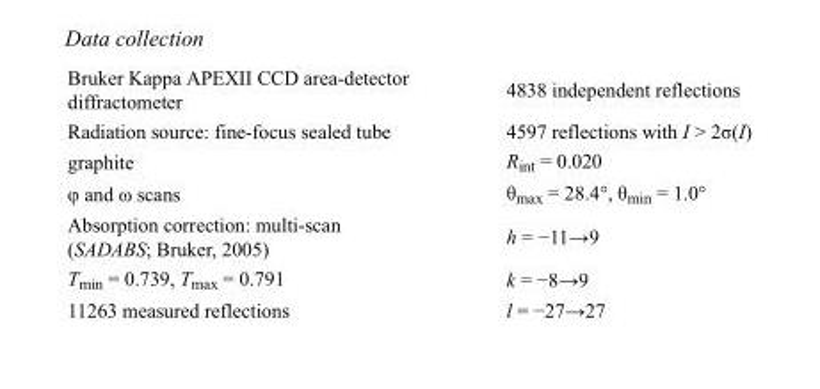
<table><tbody><tr><td>Bruker Kappa APEXII CCD area-detector diffractometer</td><td>4838 independent reflections</td></tr><tr><td>Radiation source: fine-focus sealed tube</td><td>4597 reflections with I &gt; 2σ(I)</td></tr><tr><td>graphite</td><td>R<sub>int</sub> = 0.020</td></tr><tr><td>φ and ω scans</td><td>θ<sub>max</sub> = 28.4°, θ<sub>min</sub> = 1.0°</td></tr><tr><td>Absorption correction: multi-scan (SADABS; Bruker, 2005)</td><td>h = −11→9</td></tr><tr><td>T<sub>min</sub> = 0.739, T<sub>max</sub> = 0.791</td><td>k = −8→9</td></tr><tr><td>11263 measured reflections</td><td>l = −27→27</td></tr></tbody></table>